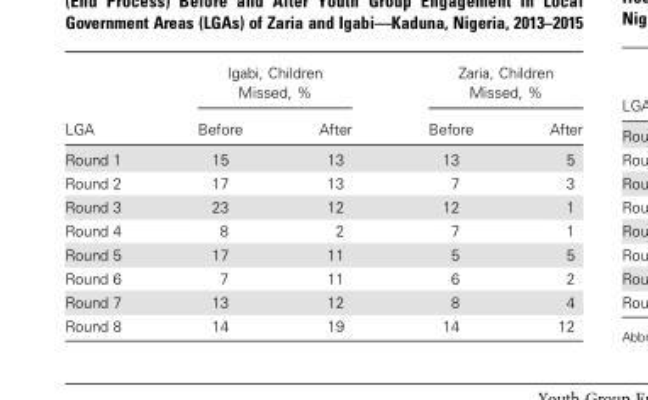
<table><thead><tr><td rowspan="2">LGA</td><td colspan="2">Igabi, Children Missed, %</td><td colspan="2">Zaria, Children Missed, %</td></tr><tr><td>Before</td><td>After</td><td>Before</td><td>After</td></tr></thead><tbody><tr><td>Round 1</td><td>15</td><td>13</td><td>13</td><td>5</td></tr><tr><td>Round 2</td><td>17</td><td>13</td><td>7</td><td>3</td></tr><tr><td>Round 3</td><td>23</td><td>12</td><td>12</td><td>1</td></tr><tr><td>Round 4</td><td>8</td><td>2</td><td>7</td><td>1</td></tr><tr><td>Round 5</td><td>17</td><td>11</td><td>5</td><td>5</td></tr><tr><td>Round 6</td><td>7</td><td>11</td><td>6</td><td>2</td></tr><tr><td>Round 7</td><td>13</td><td>12</td><td>8</td><td>4</td></tr><tr><td>Round 8</td><td>14</td><td>19</td><td>14</td><td>12</td></tr></tbody></table>